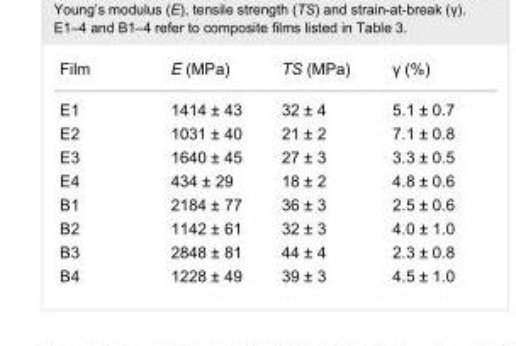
<table><tbody><tr><td>Film</td><td>E (MPa)</td><td>TS (MPa)</td><td>γ (%)</td></tr><tr><td>E1</td><td>1414 ± 43</td><td>32 ± 4</td><td>5.1 ± 0.7</td></tr><tr><td>E2</td><td>1031 ± 40</td><td>21 ± 2</td><td>7.1 ± 0.8</td></tr><tr><td>E3</td><td>1640 ± 45</td><td>27 ± 3</td><td>3.3 ± 0.5</td></tr><tr><td>E4</td><td>434 ± 29</td><td>18 ± 2</td><td>4.8 ± 0.6</td></tr><tr><td>B1</td><td>2184 ± 77</td><td>36 ± 3</td><td>2.5 ± 0.6</td></tr><tr><td>B2</td><td>1142 ± 61</td><td>32 ± 3</td><td>4.0 ± 1.0</td></tr><tr><td>B3</td><td>2848 ± 81</td><td>44 ± 4</td><td>2.3 ± 0.8</td></tr><tr><td>B4</td><td>1228 ± 49</td><td>39 ± 3</td><td>4.5 ± 1.0</td></tr></tbody></table>